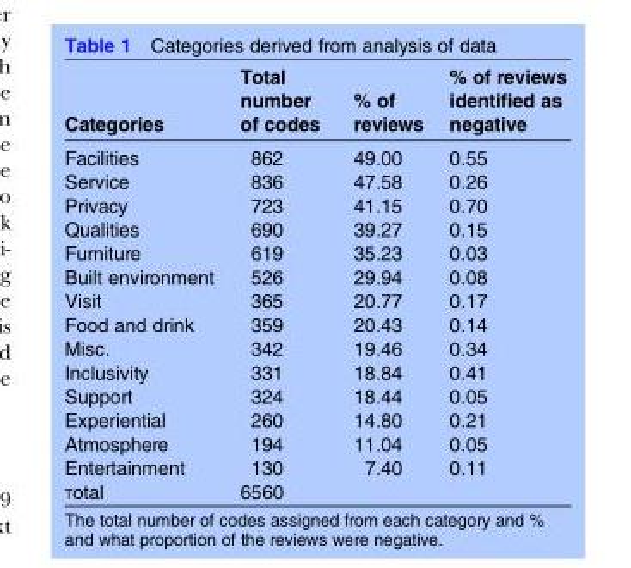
<table><thead><tr><td>Categories</td><td>Total number of codes</td><td>% of reviews</td><td>% of reviews identified as negative</td></tr></thead><tbody><tr><td>Facilities</td><td>862</td><td>49.00</td><td>0.55</td></tr><tr><td>Service</td><td>836</td><td>47.58</td><td>0.26</td></tr><tr><td>Privacy</td><td>723</td><td>41.15</td><td>0.70</td></tr><tr><td>Qualities</td><td>690</td><td>39.27</td><td>0.15</td></tr><tr><td>Furniture</td><td>619</td><td>35.23</td><td>0.03</td></tr><tr><td>Built environment</td><td>526</td><td>29.94</td><td>0.08</td></tr><tr><td>Visit</td><td>365</td><td>20.77</td><td>0.17</td></tr><tr><td>Food and drink</td><td>359</td><td>20.43</td><td>0.14</td></tr><tr><td>Misc.</td><td>342</td><td>19.46</td><td>0.34</td></tr><tr><td>Inclusivity</td><td>331</td><td>18.84</td><td>0.41</td></tr><tr><td>Support</td><td>324</td><td>18.44</td><td>0.05</td></tr><tr><td>Experiential</td><td>260</td><td>14.80</td><td>0.21</td></tr><tr><td>Atmosphere</td><td>194</td><td>11.04</td><td>0.05</td></tr><tr><td>Entertainment</td><td>130</td><td>7.40</td><td>0.11</td></tr><tr><td>Total</td><td>6560</td><td></td><td></td></tr></tbody></table>